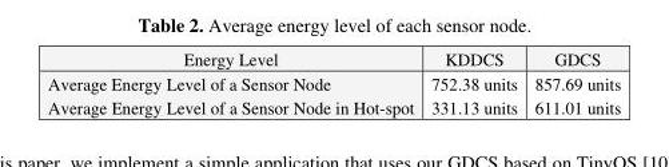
<table><thead><tr><td>Energy Level</td><td>KDDCS</td><td>GDCS</td></tr></thead><tbody><tr><td>Average Energy Level of a Sensor Node</td><td>752.38 units</td><td>857.69 units</td></tr><tr><td>Average Energy Level of a Sensor Node in Hot-spot</td><td>331.13 units</td><td>611.01 units</td></tr></tbody></table>